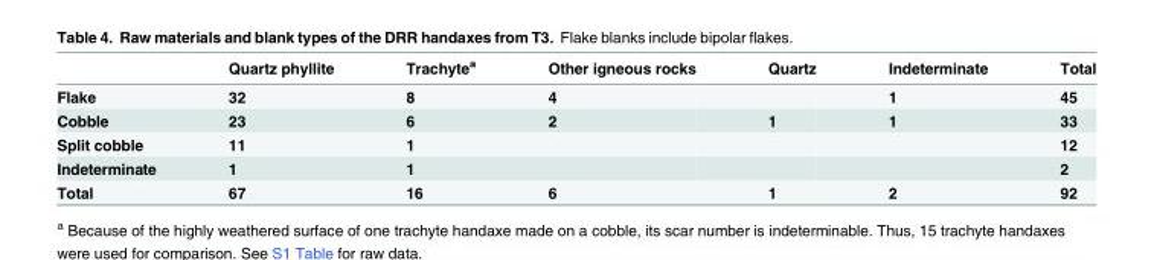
<table><thead><tr><td></td><td>Quartz phyllite</td><td>Trachyte<sup>a</sup></td><td>Other igneous rocks</td><td>Quartz</td><td>Indeterminate</td><td>Total</td></tr></thead><tbody><tr><td>Flake</td><td>32</td><td>8</td><td>4</td><td></td><td>1</td><td>45</td></tr><tr><td>Cobble</td><td>23</td><td>6</td><td>2</td><td>1</td><td>1</td><td>33</td></tr><tr><td>Split cobble</td><td>11</td><td>1</td><td></td><td></td><td></td><td>12</td></tr><tr><td>Indeterminate</td><td>1</td><td>1</td><td></td><td></td><td></td><td>2</td></tr><tr><td>Total</td><td>67</td><td>16</td><td>6</td><td>1</td><td>2</td><td>92</td></tr></tbody></table>